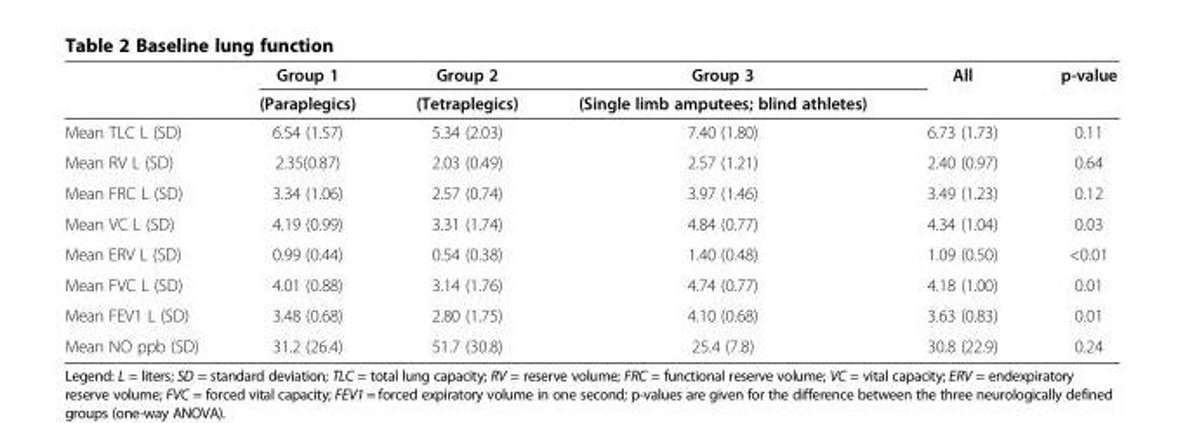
<table><thead><tr><td rowspan="2"></td><td rowspan="2">Group 1 (Paraplegics)</td><td rowspan="2">Group 2 (Tetraplegics)</td><td rowspan="2">Group 3 (Single limb amputees; blind athletes)</td><td rowspan="2">All</td><td rowspan="2">p-value</td></tr><tr></tr></thead><tbody><tr><td>Mean TLC L (SD)</td><td>6.54 (1.57)</td><td>5.34 (2.03)</td><td>7.40 (1.80)</td><td>6.73 (1.73)</td><td>0.11</td></tr><tr><td>Mean RV L (SD)</td><td>2.35(0.87)</td><td>2.03 (0.49)</td><td>2.57 (1.21)</td><td>2.40 (0.97)</td><td>0.64</td></tr><tr><td>Mean FRC L (SD)</td><td>3.34 (1.06)</td><td>2.57 (0.74)</td><td>3.97 (1.46)</td><td>3.49 (1.23)</td><td>0.12</td></tr><tr><td>Mean VC L (SD)</td><td>4.19 (0.99)</td><td>3.31 (1.74)</td><td>4.84 (0.77)</td><td>4.34 (1.04)</td><td>0.03</td></tr><tr><td>Mean ERV L (SD)</td><td>0.99 (0.44)</td><td>0.54 (0.38)</td><td>1.40 (0.48)</td><td>1.09 (0.50)</td><td>&lt;0.01</td></tr><tr><td>Mean FVC L (SD)</td><td>4.01 (0.88)</td><td>3.14 (1.76)</td><td>4.74 (0.77)</td><td>4.18 (1.00)</td><td>0.01</td></tr><tr><td>Mean FEV1 L (SD)</td><td>3.48 (0.68)</td><td>2.80 (1.75)</td><td>4.10 (0.68)</td><td>3.63 (0.83)</td><td>0.01</td></tr><tr><td>Mean NO ppb (SD)</td><td>31.2 (26.4)</td><td>51.7 (30.8)</td><td>25.4 (7.8)</td><td>30.8 (22.9)</td><td>0.24</td></tr></tbody></table>